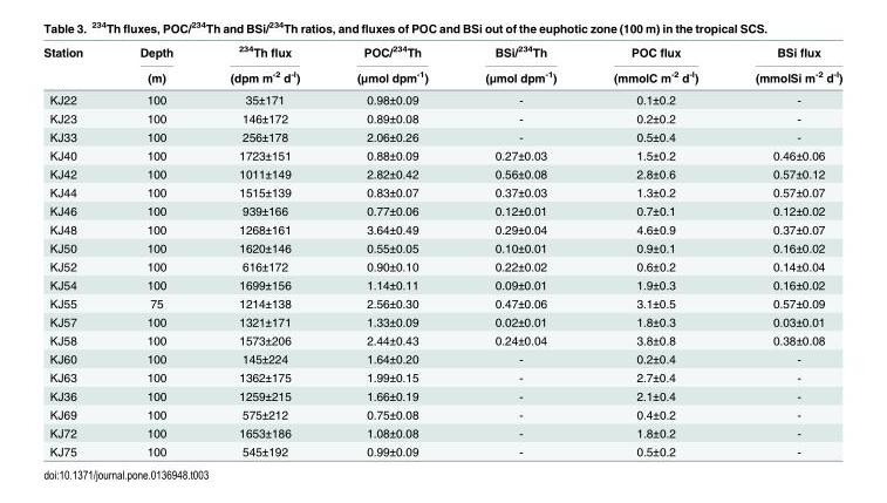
<table><thead><tr><td rowspan="2">Station</td><td rowspan="2">Depth (m)</td><td rowspan="2"><sup>234</sup>Th flux (dpm m<sup>-2</sup> d<sup>-l</sup>)</td><td rowspan="2">POC/<sup>234</sup>Th (μmol dpm<sup>-1</sup>)</td><td rowspan="2">BSi/<sup>234</sup>Th (μmol dpm<sup>-1</sup>)</td><td rowspan="2">POC flux (mmolC m<sup>-2</sup> d<sup>-l</sup>)</td><td rowspan="2">BSi flux (mmolSi m<sup>-2</sup> d<sup>-l</sup>)</td></tr><tr></tr></thead><tbody><tr><td>KJ22</td><td>100</td><td>35±171</td><td>0.98±0.09</td><td>-</td><td>0.1±0.2</td><td>-</td></tr><tr><td>KJ23</td><td>100</td><td>146±172</td><td>0.89±0.08</td><td>-</td><td>0.2±0.2</td><td>-</td></tr><tr><td>KJ33</td><td>100</td><td>256±178</td><td>2.06±0.26</td><td>-</td><td>0.5±0.4</td><td>-</td></tr><tr><td>KJ40</td><td>100</td><td>1723±151</td><td>0.88±0.09</td><td>0.27±0.03</td><td>1.5±0.2</td><td>0.46±0.06</td></tr><tr><td>KJ42</td><td>100</td><td>1011±149</td><td>2.82±0.42</td><td>0.56±0.08</td><td>2.8±0.6</td><td>0.57±0.12</td></tr><tr><td>KJ44</td><td>100</td><td>1515±139</td><td>0.83±0.07</td><td>0.37±0.03</td><td>1.3±0.2</td><td>0.57±0.07</td></tr><tr><td>KJ46</td><td>100</td><td>939±166</td><td>0.77±0.06</td><td>0.12±0.01</td><td>0.7±0.1</td><td>0.12±0.02</td></tr><tr><td>KJ48</td><td>100</td><td>1268±161</td><td>3.64±0.49</td><td>0.29±0.04</td><td>4.6±0.9</td><td>0.37±0.07</td></tr><tr><td>KJ50</td><td>100</td><td>1620±146</td><td>0.55±0.05</td><td>0.10±0.01</td><td>0.9±0.1</td><td>0.16±0.02</td></tr><tr><td>KJ52</td><td>100</td><td>616±172</td><td>0.90±0.10</td><td>0.22±0.02</td><td>0.6±0.2</td><td>0.14±0.04</td></tr><tr><td>KJ54</td><td>100</td><td>1699±156</td><td>1.14±0.11</td><td>0.09±0.01</td><td>1.9±0.3</td><td>0.16±0.02</td></tr><tr><td>KJ55</td><td>75</td><td>1214±138</td><td>2.56±0.30</td><td>0.47±0.06</td><td>3.1±0.5</td><td>0.57±0.09</td></tr><tr><td>KJ57</td><td>100</td><td>1321±171</td><td>1.33±0.09</td><td>0.02±0.01</td><td>1.8±0.3</td><td>0.03±0.01</td></tr><tr><td>KJ58</td><td>100</td><td>1573±206</td><td>2.44±0.43</td><td>0.24±0.04</td><td>3.8±0.8</td><td>0.38±0.08</td></tr><tr><td>KJ60</td><td>100</td><td>145±224</td><td>1.64±0.20</td><td>-</td><td>0.2±0.4</td><td>-</td></tr><tr><td>KJ63</td><td>100</td><td>1362±175</td><td>1.99±0.15</td><td>-</td><td>2.7±0.4</td><td>-</td></tr><tr><td>KJ36</td><td>100</td><td>1259±215</td><td>1.66±0.19</td><td>-</td><td>2.1±0.4</td><td>-</td></tr><tr><td>KJ69</td><td>100</td><td>575±212</td><td>0.75±0.08</td><td>-</td><td>0.4±0.2</td><td>-</td></tr><tr><td>KJ72</td><td>100</td><td>1653±186</td><td>1.08±0.08</td><td>-</td><td>1.8±0.2</td><td>-</td></tr><tr><td>KJ75</td><td>100</td><td>545±192</td><td>0.99±0.09</td><td>-</td><td>0.5±0.2</td><td>-</td></tr></tbody></table>